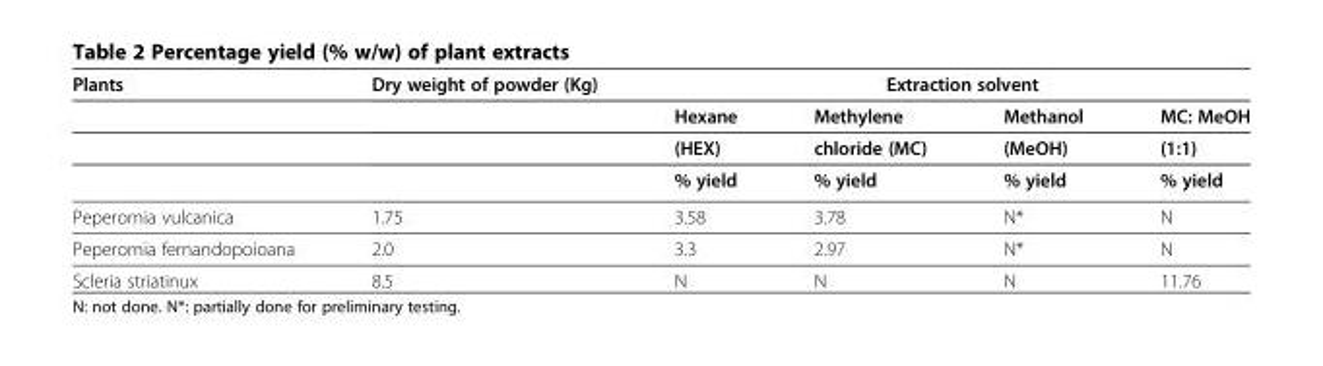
<table><thead><tr><td rowspan="4">Plants</td><td rowspan="4">Dry weight of powder (Kg)</td><td colspan="4">Extraction solvent</td></tr><tr><td rowspan="3">Hexane (HEX) % yield</td><td rowspan="3">Methylene chloride (MC) % yield</td><td rowspan="3">Methanol (MeOH) % yield</td><td rowspan="3">MC: MeOH (1:1) % yield</td></tr><tr></tr><tr></tr></thead><tbody><tr><td>Peperomia vulcanica</td><td>1.75</td><td>3.58</td><td>3.78</td><td>N*</td><td>N</td></tr><tr><td>Peperomia fernandopoioana</td><td>2.0</td><td>3.3</td><td>2.97</td><td>N*</td><td>N</td></tr><tr><td>Scleria striatinux</td><td>8.5</td><td>N</td><td>N</td><td>N</td><td>11.76</td></tr></tbody></table>